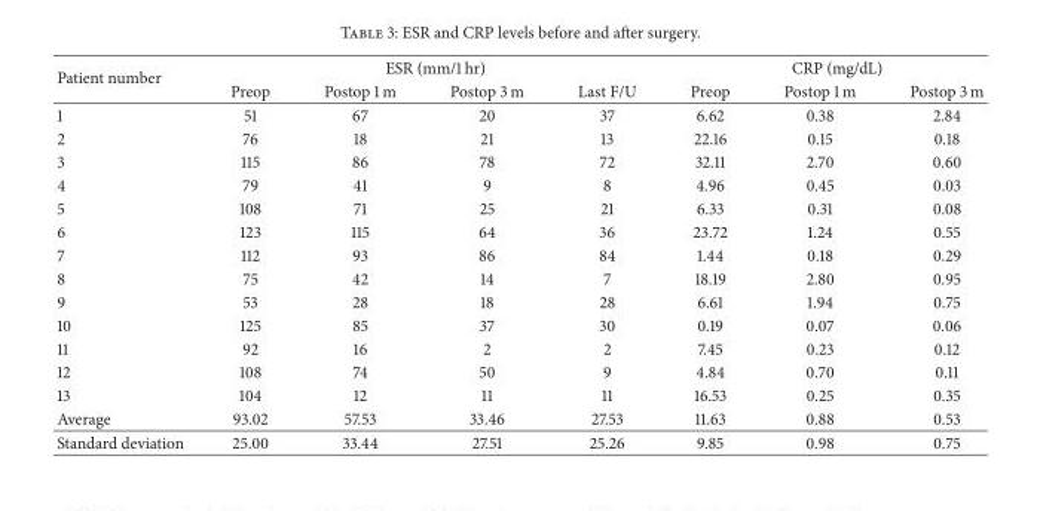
<table><thead><tr><td rowspan="2">Patient number</td><td colspan="4">ESR (mm/1 hr)</td><td colspan="3">CRP (mg/dL)</td></tr><tr><td>Preop</td><td>Postop 1 m</td><td>Postop 3 m</td><td>Last F/U</td><td>Preop</td><td>Postop 1 m</td><td>Postop 3 m</td></tr></thead><tbody><tr><td>1</td><td>51</td><td>67</td><td>20</td><td>37</td><td>6.62</td><td>0.38</td><td>2.84</td></tr><tr><td>2</td><td>76</td><td>18</td><td>21</td><td>13</td><td>22.16</td><td>0.15</td><td>0.18</td></tr><tr><td>3</td><td>115</td><td>86</td><td>78</td><td>72</td><td>32.11</td><td>2.70</td><td>0.60</td></tr><tr><td>4</td><td>79</td><td>41</td><td>9</td><td>8</td><td>4.96</td><td>0.45</td><td>0.03</td></tr><tr><td>5</td><td>108</td><td>71</td><td>25</td><td>21</td><td>6.33</td><td>0.31</td><td>0.08</td></tr><tr><td>6</td><td>123</td><td>115</td><td>64</td><td>36</td><td>23.72</td><td>1.24</td><td>0.55</td></tr><tr><td>7</td><td>112</td><td>93</td><td>86</td><td>84</td><td>1.44</td><td>0.18</td><td>0.29</td></tr><tr><td>8</td><td>75</td><td>42</td><td>14</td><td>7</td><td>18.19</td><td>2.80</td><td>0.95</td></tr><tr><td>9</td><td>53</td><td>28</td><td>18</td><td>28</td><td>6.61</td><td>1.94</td><td>0.75</td></tr><tr><td>10</td><td>125</td><td>85</td><td>37</td><td>30</td><td>0.19</td><td>0.07</td><td>0.06</td></tr><tr><td>11</td><td>92</td><td>16</td><td>2</td><td>2</td><td>7.45</td><td>0.23</td><td>0.12</td></tr><tr><td>12</td><td>108</td><td>74</td><td>50</td><td>9</td><td>4.84</td><td>0.70</td><td>0.11</td></tr><tr><td>13</td><td>104</td><td>12</td><td>11</td><td>11</td><td>16.53</td><td>0.25</td><td>0.35</td></tr><tr><td>Average</td><td>93.02</td><td>57.53</td><td>33.46</td><td>27.53</td><td>11.63</td><td>0.88</td><td>0.53</td></tr><tr><td>Standard deviation</td><td>25.00</td><td>33.44</td><td>27.51</td><td>25.26</td><td>9.85</td><td>0.98</td><td>0.75</td></tr></tbody></table>